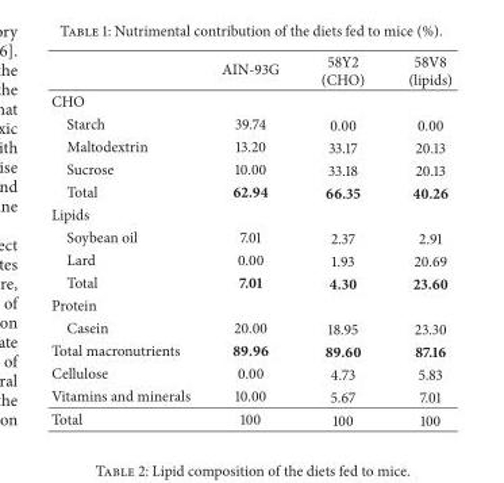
<table><thead><tr><td></td><td>AIN-93G</td><td>58Y2 (CHO)</td><td>58V8 (lipids)</td></tr></thead><tbody><tr><td colspan="4">CHO</td></tr><tr><td>Starch</td><td>39.74</td><td>0.00</td><td>0.00</td></tr><tr><td>Maltodextrin</td><td>13.20</td><td>33.17</td><td>20.13</td></tr><tr><td>Sucrose</td><td>10.00</td><td>33.18</td><td>20.13</td></tr><tr><td>Total</td><td>62.94</td><td>66.35</td><td>40.26</td></tr><tr><td colspan="4">Lipids</td></tr><tr><td>Soybean oil</td><td>7.01</td><td>2.37</td><td>2.91</td></tr><tr><td>Lard</td><td>0.00</td><td>1.93</td><td>20.69</td></tr><tr><td>Total</td><td>7.01</td><td>4.30</td><td>23.60</td></tr><tr><td colspan="4">Protein</td></tr><tr><td>Casein</td><td>20.00</td><td>18.95</td><td>23.30</td></tr><tr><td>Total macronutrients</td><td>89.96</td><td>89.60</td><td>87.16</td></tr><tr><td>Cellulose</td><td>0.00</td><td>4.73</td><td>5.83</td></tr><tr><td>Vitamins and minerals</td><td>10.00</td><td>5.67</td><td>7.01</td></tr><tr><td>Total</td><td>100</td><td>100</td><td>100</td></tr></tbody></table>